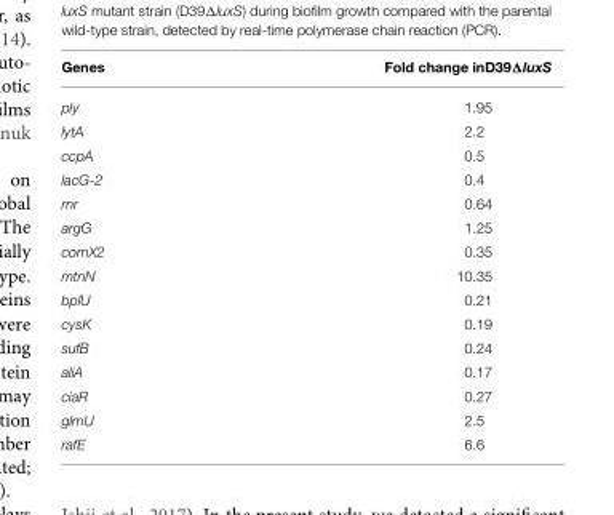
<table><thead><tr><td>Genes</td><td>Fold change inD39ΔluxS</td></tr></thead><tbody><tr><td>ply</td><td>1.95</td></tr><tr><td>lytA</td><td>2.2</td></tr><tr><td>ccpA</td><td>0.5</td></tr><tr><td>lacG-2</td><td>0.4</td></tr><tr><td>rnr</td><td>0.64</td></tr><tr><td>argG</td><td>1.25</td></tr><tr><td>comX2</td><td>0.35</td></tr><tr><td>mtnN</td><td>10.35</td></tr><tr><td>bplU</td><td>0.21</td></tr><tr><td>cysK</td><td>0.19</td></tr><tr><td>sufB</td><td>0.24</td></tr><tr><td>aliA</td><td>0.17</td></tr><tr><td>ciaR</td><td>0.27</td></tr><tr><td>glmU</td><td>2.5</td></tr><tr><td>rafE</td><td>6.6</td></tr></tbody></table>